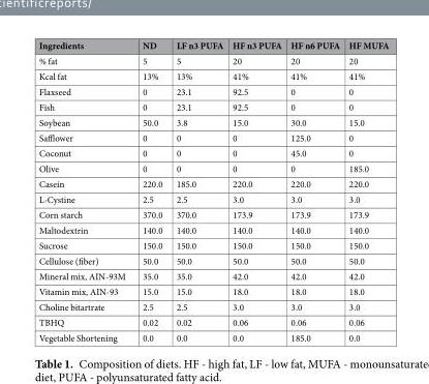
<table><thead><tr><td>Ingredients</td><td>ND</td><td>LF n3 PUFA</td><td>HF n3 PUFA</td><td>HF n6 PUFA</td><td>HF MUFA</td></tr></thead><tbody><tr><td>% fat</td><td>5</td><td>5</td><td>20</td><td>20</td><td>20</td></tr><tr><td>Kcal fat</td><td>13%</td><td>13%</td><td>41%</td><td>41%</td><td>41%</td></tr><tr><td>Flaxseed</td><td>0</td><td>23.1</td><td>92.5</td><td>0</td><td>0</td></tr><tr><td>Fish</td><td>0</td><td>23.1</td><td>92.5</td><td>0</td><td>0</td></tr><tr><td>Soybean</td><td>50.0</td><td>3.8</td><td>15.0</td><td>30.0</td><td>15.0</td></tr><tr><td>Safflower</td><td>0</td><td>0</td><td>0</td><td>125.0</td><td>0</td></tr><tr><td>Coconut</td><td>0</td><td>0</td><td>0</td><td>45.0</td><td>0</td></tr><tr><td>Olive</td><td>0</td><td>0</td><td>0</td><td>0</td><td>185.0</td></tr><tr><td>Casein</td><td>220.0</td><td>185.0</td><td>220.0</td><td>220.0</td><td>220.0</td></tr><tr><td>L-Cystine</td><td>2.5</td><td>2.5</td><td>3.0</td><td>3.0</td><td>3.0</td></tr><tr><td>Corn starch</td><td>370.0</td><td>370.0</td><td>173.9</td><td>173.9</td><td>173.9</td></tr><tr><td>Maltodextrin</td><td>140.0</td><td>140.0</td><td>140.0</td><td>140.0</td><td>140.0</td></tr><tr><td>Sucrose</td><td>150.0</td><td>150.0</td><td>150.0</td><td>150.0</td><td>150.0</td></tr><tr><td>Cellulose (fiber)</td><td>50.0</td><td>50.0</td><td>50.0</td><td>50.0</td><td>50.0</td></tr><tr><td>Mineral mix, AIN-93M</td><td>35.0</td><td>35.0</td><td>42.0</td><td>42.0</td><td>42.0</td></tr><tr><td>Vitamin mix, AIN-93</td><td>15.0</td><td>15.0</td><td>18.0</td><td>18.0</td><td>18.0</td></tr><tr><td>Choline bitartrate</td><td>2.5</td><td>2.5</td><td>3.0</td><td>3.0</td><td>3.0</td></tr><tr><td>TBHQ</td><td>0.02</td><td>0.02</td><td>0.06</td><td>0.06</td><td>0.06</td></tr><tr><td>Vegetable Shortening</td><td>0.0</td><td>0.0</td><td>0.0</td><td>185.0</td><td>0.0</td></tr></tbody></table>